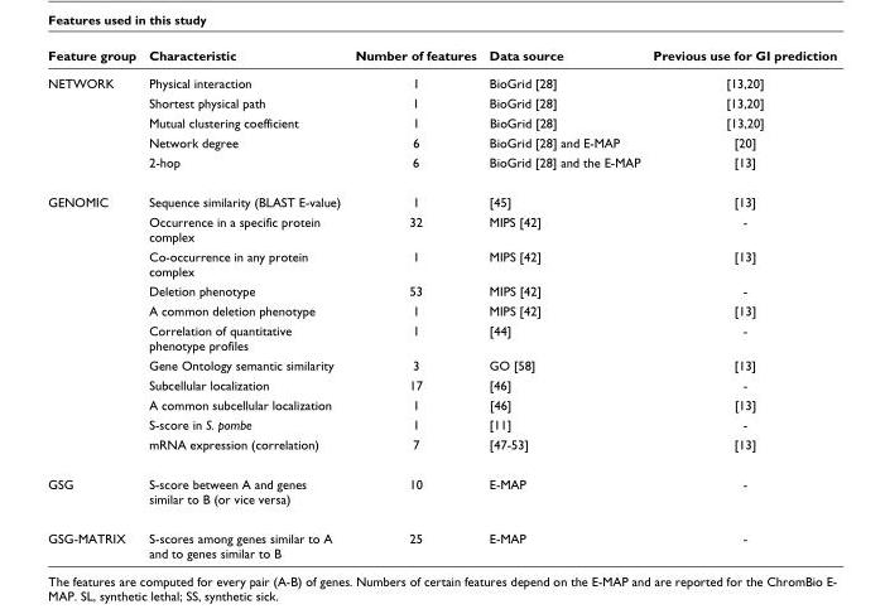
<table><thead><tr><td>Feature group</td><td>Characteristic</td><td>Number of features</td><td>Data source</td><td>Previous use for GI prediction</td></tr></thead><tbody><tr><td rowspan="5">NETWORK</td><td>Physical interaction</td><td>1</td><td>BioGrid [28]</td><td>[13,20]</td></tr><tr><td>Shortest physical path</td><td>1</td><td>BioGrid [28]</td><td>[13,20]</td></tr><tr><td>Mutual clustering coefficient</td><td>1</td><td>BioGrid [28]</td><td>[13,20]</td></tr><tr><td>Network degree</td><td>6</td><td>BioGrid [28] and E-MAP</td><td>[20]</td></tr><tr><td>2-hop</td><td>6</td><td>BioGrid [28] and the E-MAP</td><td>[13]</td></tr><tr><td rowspan="11">GENOMIC</td><td>Sequence similarity (BLAST E-value)</td><td>1</td><td>[45]</td><td>[13]</td></tr><tr><td>Occurrence in a specific protein complex</td><td>32</td><td>MIPS [42]</td><td>-</td></tr><tr><td>Co-occurrence in any protein complex</td><td>1</td><td>MIPS [42]</td><td>[13]</td></tr><tr><td>Deletion phenotype</td><td>53</td><td>MIPS [42]</td><td>-</td></tr><tr><td>A common deletion phenotype</td><td>1</td><td>MIPS [42]</td><td>[13]</td></tr><tr><td>Correlation of quantitative phenotype profiles</td><td>1</td><td>[44]</td><td>-</td></tr><tr><td>Gene Ontology semantic similarity</td><td>3</td><td>GO [58]</td><td>[13]</td></tr><tr><td>Subcellular localization</td><td>17</td><td>[46]</td><td>-</td></tr><tr><td>A common subcellular localization</td><td>1</td><td>[46]</td><td>[13]</td></tr><tr><td>S-score in S. pombe</td><td>1</td><td>[11]</td><td>-</td></tr><tr><td>mRNA expression (correlation)</td><td>7</td><td>[47-53]</td><td>[13]</td></tr><tr><td>GSG</td><td>S-score between A and genes similar to B (or vice versa)</td><td>10</td><td>E-MAP</td><td>-</td></tr><tr><td>GSG-MATRIX</td><td>S-scores among genes similar to A and to genes similar to B</td><td>25</td><td>E-MAP</td><td>-</td></tr></tbody></table>